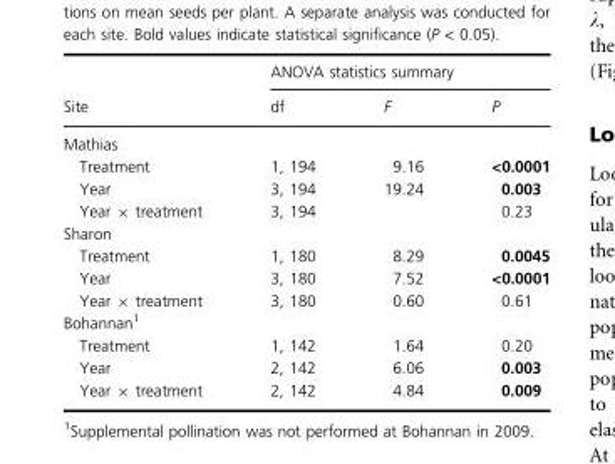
<table><thead><tr><td rowspan="2">Site</td><td colspan="3">ANOVA statistics summary</td></tr><tr><td>df</td><td>F</td><td>P</td></tr></thead><tbody><tr><td colspan="4">Mathias</td></tr><tr><td>Treatment</td><td>1, 194</td><td>9.16</td><td>&lt;0.0001</td></tr><tr><td>Year</td><td>3, 194</td><td>19.24</td><td>0.003</td></tr><tr><td>Year × treatment</td><td>3, 194</td><td></td><td>0.23</td></tr><tr><td colspan="4">Sharon</td></tr><tr><td>Treatment</td><td>1, 180</td><td>8.29</td><td>0.0045</td></tr><tr><td>Year</td><td>3, 180</td><td>7.52</td><td>&lt;0.0001</td></tr><tr><td>Year × treatment</td><td>3, 180</td><td>0.60</td><td>0.61</td></tr><tr><td colspan="4">Bohannan1</td></tr><tr><td>Treatment</td><td>1, 142</td><td>1.64</td><td>0.20</td></tr><tr><td>Year</td><td>2, 142</td><td>6.06</td><td>0.003</td></tr><tr><td>Year × treatment</td><td>2, 142</td><td>4.84</td><td>0.009</td></tr></tbody></table>